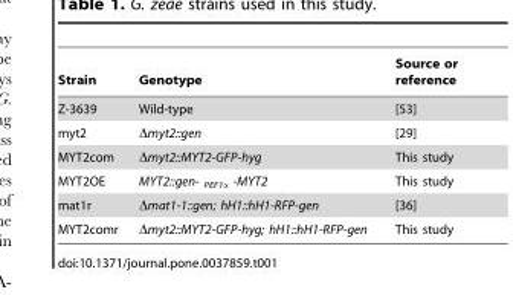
<table><thead><tr><td>Strain</td><td>Genotype</td><td>Source or reference</td></tr></thead><tbody><tr><td>Z-3639</td><td>Wild-type</td><td>[53]</td></tr><tr><td>myt2</td><td>Δmyt2::gen</td><td>[29]</td></tr><tr><td>MYT2com</td><td>Δmyt2::MYT2-GFP-hyg</td><td>This study</td></tr><tr><td>MYT2OE</td><td>MYT2::gen- <sub>PEF1α</sub> -MYT2</td><td>This study</td></tr><tr><td>mat1r</td><td>Δmat1-1::gen; hH1::hH1-RFP-gen</td><td>[36]</td></tr><tr><td>MYT2comr</td><td>Δmyt2::MYT2-GFP-hyg; hH1::hH1-RFP-gen</td><td>This study</td></tr></tbody></table>